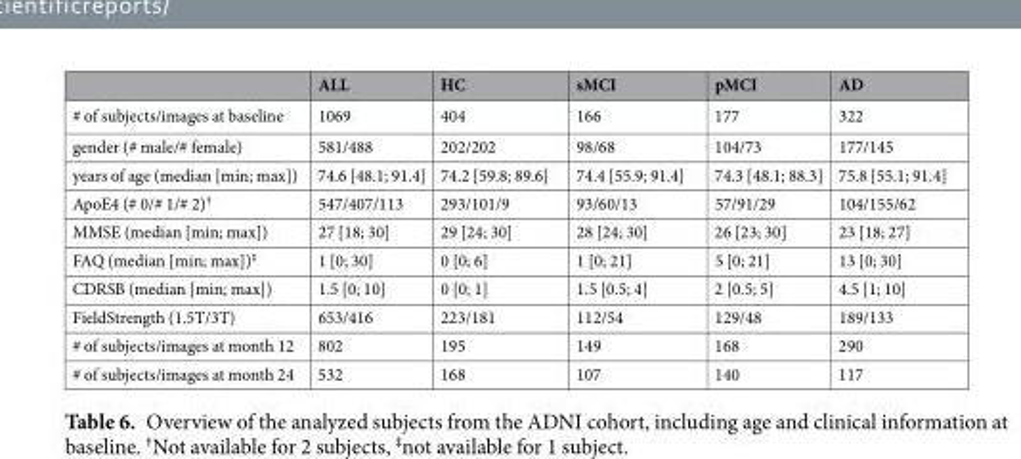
<table><thead><tr><td></td><td>ALL</td><td>HC</td><td>sMCI</td><td>pMCI</td><td>AD</td></tr></thead><tbody><tr><td># of subjects/images at baseline</td><td>1069</td><td>404</td><td>166</td><td>177</td><td>322</td></tr><tr><td>gender (# male/# female)</td><td>581/488</td><td>202/202</td><td>98/68</td><td>104/73</td><td>177/145</td></tr><tr><td>years of age (median [min; max])</td><td>74.6 [48.1; 91.4]</td><td>74.2 [59.8; 89.6]</td><td>74.4 [55.9; 91.4]</td><td>74.3 [48.1; 88.3]</td><td>75.8 [55.1; 91.4]</td></tr><tr><td>ApoE4 (# 0/# 1/# 2)<sup>†</sup></td><td>547/407/113</td><td>293/101/9</td><td>93/60/13</td><td>57/91/29</td><td>104/155/62</td></tr><tr><td>MMSE (median [min; max])</td><td>27 [18; 30]</td><td>29 [24; 30]</td><td>28 [24; 30]</td><td>26 [23; 30]</td><td>23 [18; 27]</td></tr><tr><td>FAQ (median [min; max])<sup>‡</sup></td><td>1 [0; 30]</td><td>0 [0; 6]</td><td>1 [0; 21]</td><td>5 [0; 21]</td><td>13 [0; 30]</td></tr><tr><td>CDRSB (median [min; max])</td><td>1.5 [0; 10]</td><td>0 [0; 1]</td><td>1.5 [0.5; 4]</td><td>2 [0.5; 5]</td><td>4.5 [1; 10]</td></tr><tr><td>FieldStrength (1.5T/3T)</td><td>653/416</td><td>223/181</td><td>112/54</td><td>129/48</td><td>189/133</td></tr><tr><td># of subjects/images at month 12</td><td>802</td><td>195</td><td>149</td><td>168</td><td>290</td></tr><tr><td># of subjects/images at month 24</td><td>532</td><td>168</td><td>107</td><td>140</td><td>117</td></tr></tbody></table>